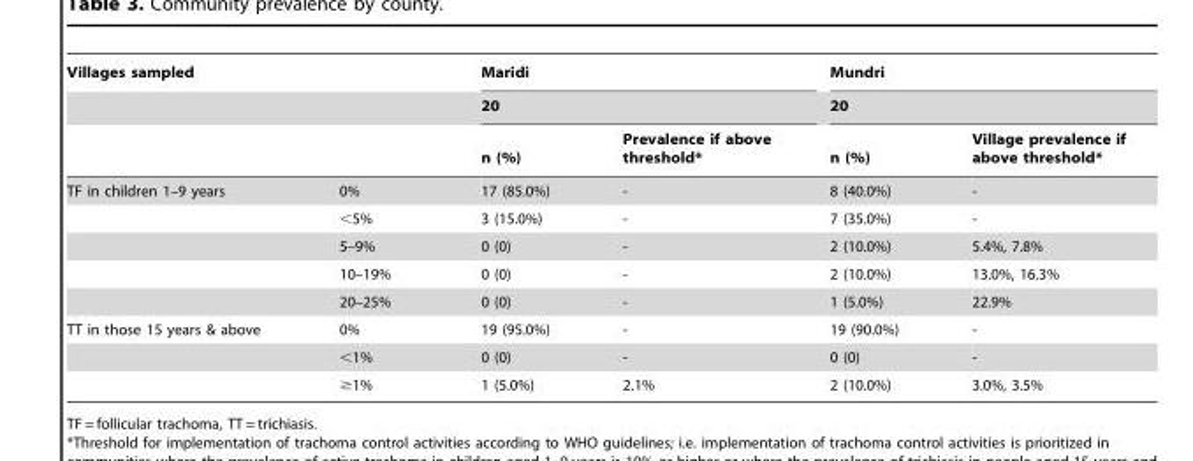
<table><thead><tr><td colspan="2">Villages sampled</td><td rowspan="2" colspan="2">Maridi 20</td><td rowspan="2" colspan="2">Mundri 20</td></tr><tr><td rowspan="2"></td><td rowspan="2"></td></tr><tr><td>n (%)</td><td>Prevalence if above threshold*</td><td>n (%)</td><td>Village prevalence if above threshold*</td></tr></thead><tbody><tr><td rowspan="5">TF in children 1–9 years</td><td>0%</td><td>17 (85.0%)</td><td>-</td><td>8 (40.0%)</td><td>-</td></tr><tr><td>&lt;5%</td><td>3 (15.0%)</td><td>-</td><td>7 (35.0%)</td><td>-</td></tr><tr><td>5–9%</td><td>0 (0)</td><td>-</td><td>2 (10.0%)</td><td>5.4%, 7.8%</td></tr><tr><td>10–19%</td><td>0 (0)</td><td>-</td><td>2 (10.0%)</td><td>13.0%, 16.3%</td></tr><tr><td>20–25%</td><td>0 (0)</td><td>-</td><td>1 (5.0%)</td><td>22.9%</td></tr><tr><td rowspan="3">TT in those 15 years &amp; above</td><td>0%</td><td>19 (95.0%)</td><td>-</td><td>19 (90.0%)</td><td>-</td></tr><tr><td>&lt;1%</td><td>0 (0)</td><td>-</td><td>0 (0)</td><td>-</td></tr><tr><td>≥1%</td><td>1 (5.0%)</td><td>2.1%</td><td>2 (10.0%)</td><td>3.0%, 3.5%</td></tr></tbody></table>